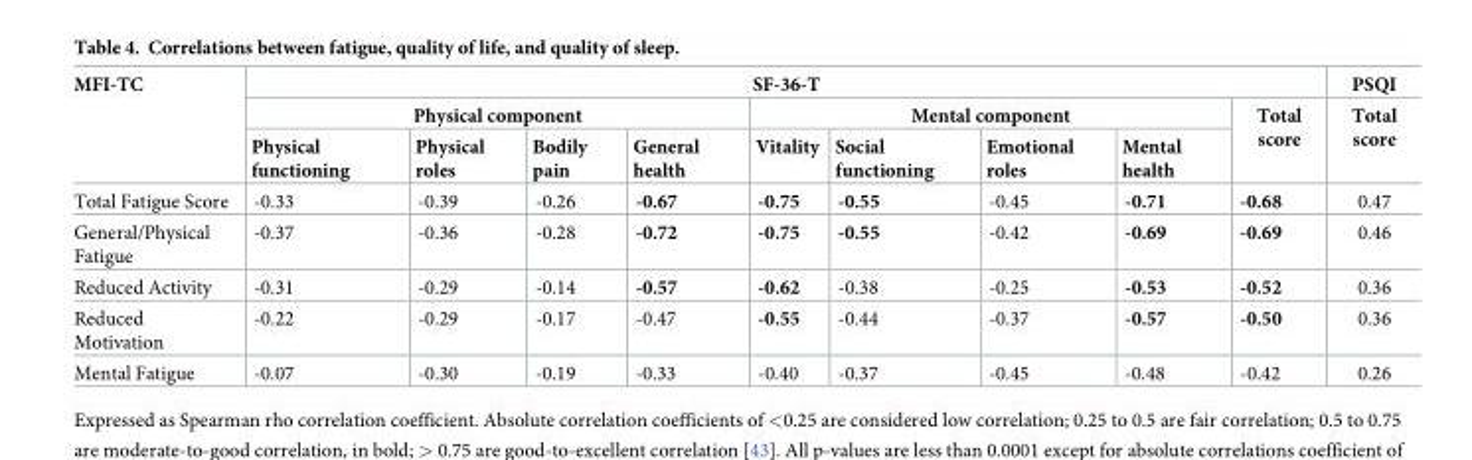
<table><thead><tr><td rowspan="3">MFI-TC</td><td colspan="9">SF-36-T</td><td rowspan="3">PSQI Total score</td></tr><tr><td colspan="4">Physical component</td><td colspan="4">Mental component</td><td rowspan="2">Total score</td></tr><tr><td>Physical functioning</td><td>Physical roles</td><td>Bodily pain</td><td>General health</td><td>Vitality</td><td>Social functioning</td><td>Emotional roles</td><td>Mental health</td></tr></thead><tbody><tr><td>Total Fatigue Score</td><td>-0.33</td><td>-0.39</td><td>-0.26</td><td>-0.67</td><td>-0.75</td><td>-0.55</td><td>-0.45</td><td>-0.71</td><td>-0.68</td><td>0.47</td></tr><tr><td>General/Physical Fatigue</td><td>-0.37</td><td>-0.36</td><td>-0.28</td><td>-0.72</td><td>-0.75</td><td>-0.55</td><td>-0.42</td><td>-0.69</td><td>-0.69</td><td>0.46</td></tr><tr><td>Reduced Activity</td><td>-0.31</td><td>-0.29</td><td>-0.14</td><td>-0.57</td><td>-0.62</td><td>-0.38</td><td>-0.25</td><td>-0.53</td><td>-0.52</td><td>0.36</td></tr><tr><td>Reduced Motivation</td><td>-0.22</td><td>-0.29</td><td>-0.17</td><td>-0.47</td><td>-0.55</td><td>-0.44</td><td>-0.37</td><td>-0.57</td><td>-0.50</td><td>0.36</td></tr><tr><td>Mental Fatigue</td><td>-0.07</td><td>-0.30</td><td>-0.19</td><td>-0.33</td><td>-0.40</td><td>-0.37</td><td>-0.45</td><td>-0.48</td><td>-0.42</td><td>0.26</td></tr></tbody></table>